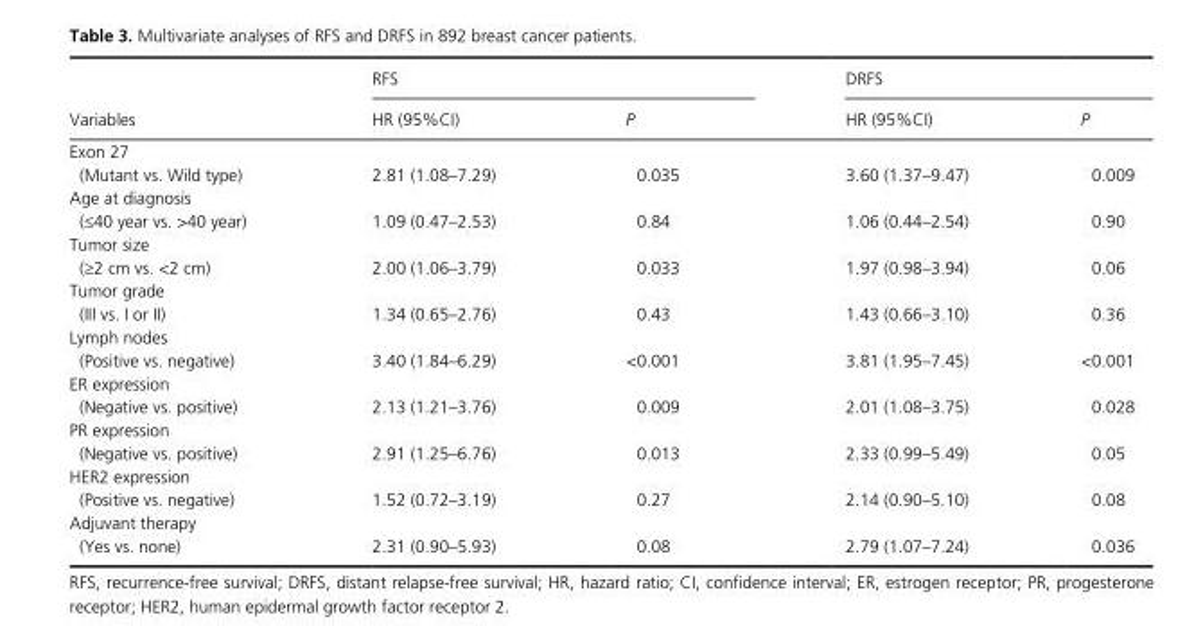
<table><thead><tr><td rowspan="2">Variables</td><td colspan="2">RFS</td><td colspan="2">DRFS</td></tr><tr><td>HR (95%CI)</td><td>P</td><td>HR (95%CI)</td><td>P</td></tr></thead><tbody><tr><td colspan="5">Exon 27</td></tr><tr><td>(Mutant vs. Wild type)</td><td>2.81 (1.08–7.29)</td><td>0.035</td><td>3.60 (1.37–9.47)</td><td>0.009</td></tr><tr><td colspan="5">Age at diagnosis</td></tr><tr><td>(≤40 year vs. &gt;40 year)</td><td>1.09 (0.47–2.53)</td><td>0.84</td><td>1.06 (0.44–2.54)</td><td>0.90</td></tr><tr><td colspan="5">Tumor size</td></tr><tr><td>(≥2 cm vs. &lt;2 cm)</td><td>2.00 (1.06–3.79)</td><td>0.033</td><td>1.97 (0.98–3.94)</td><td>0.06</td></tr><tr><td colspan="5">Tumor grade</td></tr><tr><td>(III vs. I or II)</td><td>1.34 (0.65–2.76)</td><td>0.43</td><td>1.43 (0.66–3.10)</td><td>0.36</td></tr><tr><td colspan="5">Lymph nodes</td></tr><tr><td>(Positive vs. negative)</td><td>3.40 (1.84–6.29)</td><td>&lt;0.001</td><td>3.81 (1.95–7.45)</td><td>&lt;0.001</td></tr><tr><td colspan="5">ER expression</td></tr><tr><td>(Negative vs. positive)</td><td>2.13 (1.21–3.76)</td><td>0.009</td><td>2.01 (1.08–3.75)</td><td>0.028</td></tr><tr><td colspan="5">PR expression</td></tr><tr><td>(Negative vs. positive)</td><td>2.91 (1.25–6.76)</td><td>0.013</td><td>2.33 (0.99–5.49)</td><td>0.05</td></tr><tr><td colspan="5">HER2 expression</td></tr><tr><td>(Positive vs. negative)</td><td>1.52 (0.72–3.19)</td><td>0.27</td><td>2.14 (0.90–5.10)</td><td>0.08</td></tr><tr><td colspan="5">Adjuvant therapy</td></tr><tr><td>(Yes vs. none)</td><td>2.31 (0.90–5.93)</td><td>0.08</td><td>2.79 (1.07–7.24)</td><td>0.036</td></tr></tbody></table>